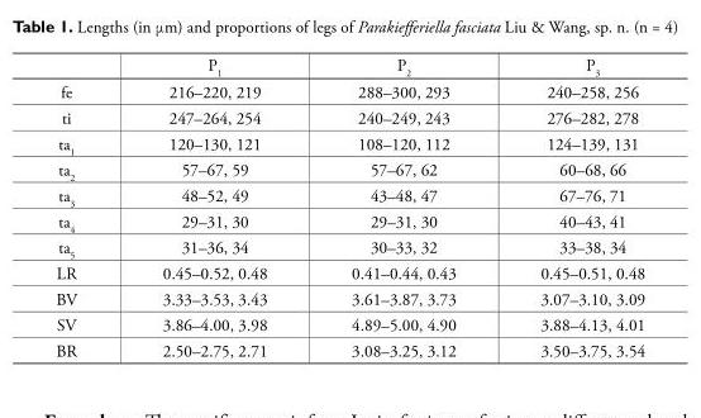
<table><thead><tr><td></td><td>P<sub>1</sub></td><td>P<sub>2</sub></td><td>P<sub>3</sub></td></tr></thead><tbody><tr><td>fe</td><td>216–220, 219</td><td>288–300, 293</td><td>240–258, 256</td></tr><tr><td>ti</td><td>247–264, 254</td><td>240–249, 243</td><td>276–282, 278</td></tr><tr><td>ta<sub>1</sub></td><td>120–130, 121</td><td>108–120, 112</td><td>124–139, 131</td></tr><tr><td>ta<sub>2</sub></td><td>57–67, 59</td><td>57–67, 62</td><td>60–68, 66</td></tr><tr><td>ta<sub>3</sub></td><td>48–52, 49</td><td>43–48, 47</td><td>67–76, 71</td></tr><tr><td>ta<sub>4</sub></td><td>29–31, 30</td><td>29–31, 30</td><td>40–43, 41</td></tr><tr><td>ta<sub>5</sub></td><td>31–36, 34</td><td>30–33, 32</td><td>33–38, 34</td></tr><tr><td>LR</td><td>0.45–0.52, 0.48</td><td>0.41–0.44, 0.43</td><td>0.45–0.51, 0.48</td></tr><tr><td>BV</td><td>3.33–3.53, 3.43</td><td>3.61–3.87, 3.73</td><td>3.07–3.10, 3.09</td></tr><tr><td>SV</td><td>3.86–4.00, 3.98</td><td>4.89–5.00, 4.90</td><td>3.88–4.13, 4.01</td></tr><tr><td>BR</td><td>2.50–2.75, 2.71</td><td>3.08–3.25, 3.12</td><td>3.50–3.75, 3.54</td></tr></tbody></table>